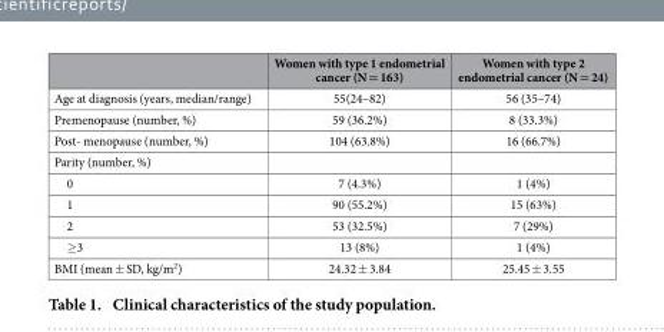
<table><thead><tr><td></td><td>Women with type 1 endometrial cancer (N = 163)</td><td>Women with type 2 endometrial cancer (N = 24)</td></tr></thead><tbody><tr><td>Age at diagnosis (years, median/range)</td><td>55(24–82)</td><td>56 (35–74)</td></tr><tr><td>Premenopause (number, %)</td><td>59 (36.2%)</td><td>8 (33.3%)</td></tr><tr><td>Post- menopause (number, %)</td><td>104 (63.8%)</td><td>16 (66.7%)</td></tr><tr><td colspan="3">Parity (number, %)</td></tr><tr><td>0</td><td>7 (4.3%)</td><td>1 (4%)</td></tr><tr><td>1</td><td>90 (55.2%)</td><td>15 (63%)</td></tr><tr><td>2</td><td>53 (32.5%)</td><td>7 (29%)</td></tr><tr><td>≥ 3</td><td>13 (8%)</td><td>1 (4%)</td></tr><tr><td>BMI (mean ± SD, kg/m<sup>2</sup>)</td><td>24.32 ± 3.84</td><td>25.45 ± 3.55</td></tr></tbody></table>